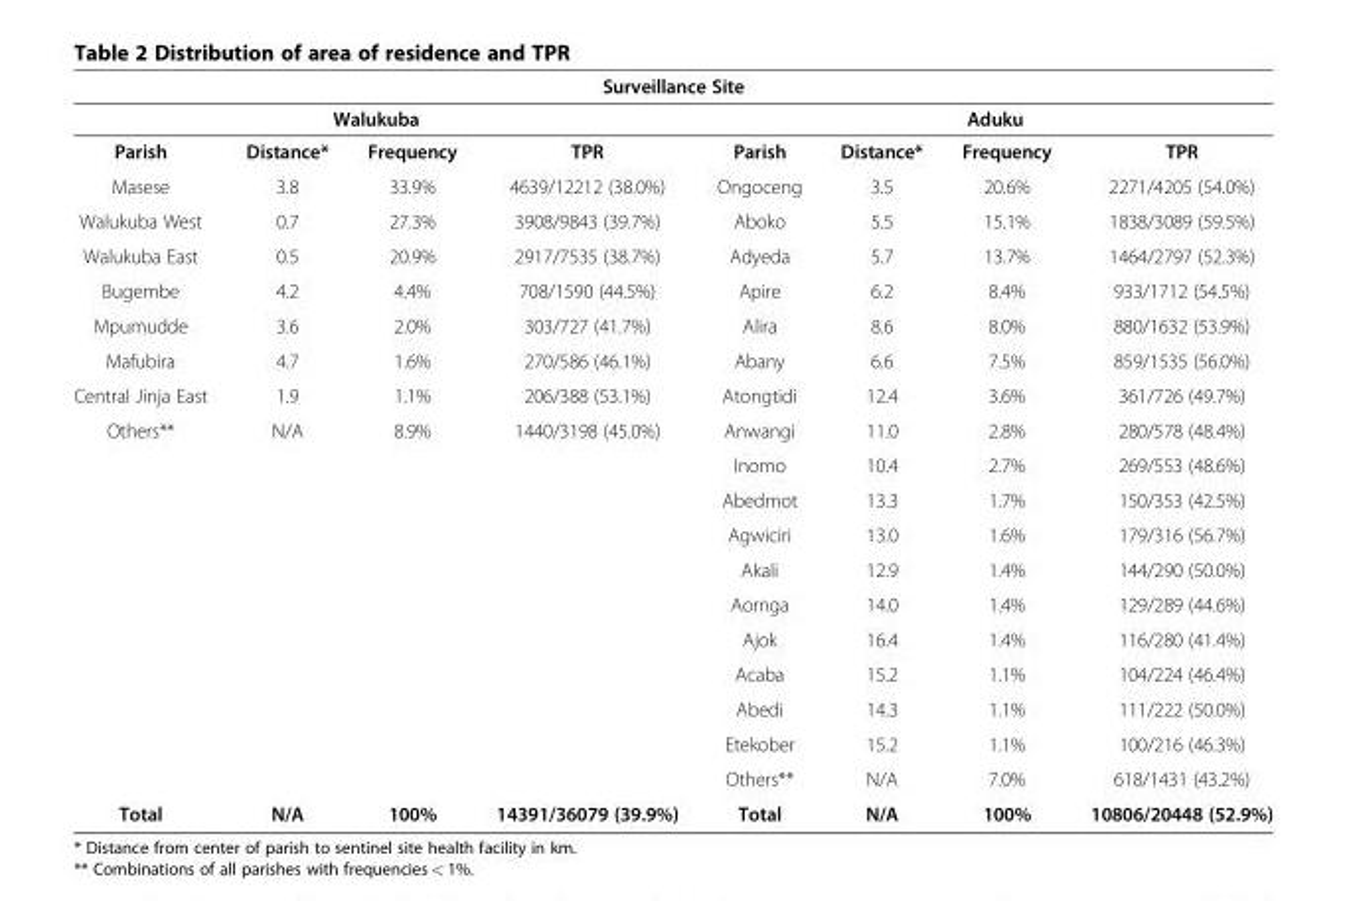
<table><thead><tr><td colspan="8">Surveillance Site</td></tr><tr><td colspan="4">Walukuba</td><td colspan="4">Aduku</td></tr><tr><td>Parish</td><td>Distance*</td><td>Frequency</td><td>TPR</td><td>Parish</td><td>Distance*</td><td>Frequency</td><td>TPR</td></tr></thead><tbody><tr><td>Masese</td><td>3.8</td><td>33.9%</td><td>4639/12212 (38.0%)</td><td>Ongoceng</td><td>3.5</td><td>20.6%</td><td>2271/4205 (54.0%)</td></tr><tr><td>Walukuba West</td><td>0.7</td><td>27.3%</td><td>3908/9843 (39.7%)</td><td>Aboko</td><td>5.5</td><td>15.1%</td><td>1838/3089 (59.5%)</td></tr><tr><td>Walukuba East</td><td>0.5</td><td>20.9%</td><td>2917/7535 (38.7%)</td><td>Adyeda</td><td>5.7</td><td>13.7%</td><td>1464/2797 (52.3%)</td></tr><tr><td>Bugembe</td><td>4.2</td><td>4.4%</td><td>708/1590 (44.5%)</td><td>Apire</td><td>6.2</td><td>8.4%</td><td>933/1712 (54.5%)</td></tr><tr><td>Mpumudde</td><td>3.6</td><td>2.0%</td><td>303/727 (41.7%)</td><td>Alira</td><td>8.6</td><td>8.0%</td><td>880/1632 (53.9%)</td></tr><tr><td>Mafubira</td><td>4.7</td><td>1.6%</td><td>270/586 (46.1%)</td><td>Abany</td><td>6.6</td><td>7.5%</td><td>859/1535 (56.0%)</td></tr><tr><td>Central Jinja East</td><td>1.9</td><td>1.1%</td><td>206/388 (53.1%)</td><td>Atongtidi</td><td>12.4</td><td>3.6%</td><td>361/726 (49.7%)</td></tr><tr><td rowspan="11">Others**</td><td>N/A</td><td>8.9%</td><td>1440/3198 (45.0%)</td><td>Anwangi</td><td>11.0</td><td>2.8%</td><td>280/578 (48.4%)</td></tr><tr><td></td><td></td><td></td><td>Inomo</td><td>10.4</td><td>2.7%</td><td>269/553 (48.6%)</td></tr><tr><td></td><td></td><td></td><td>Abedmot</td><td>13.3</td><td>1.7%</td><td>150/353 (42.5%)</td></tr><tr><td></td><td></td><td></td><td>Agwiciri</td><td>13.0</td><td>1.6%</td><td>179/316 (56.7%)</td></tr><tr><td></td><td></td><td></td><td>Akali</td><td>12.9</td><td>1.4%</td><td>144/290 (50.0%)</td></tr><tr><td></td><td></td><td></td><td>Aornga</td><td>14.0</td><td>1.4%</td><td>129/289 (44.6%)</td></tr><tr><td></td><td></td><td></td><td>Ajok</td><td>16.4</td><td>1.4%</td><td>116/280 (41.4%)</td></tr><tr><td></td><td></td><td></td><td>Acaba</td><td>15.2</td><td>1.1%</td><td>104/224 (46.4%)</td></tr><tr><td></td><td></td><td></td><td>Abedi</td><td>14.3</td><td>1.1%</td><td>111/222 (50.0%)</td></tr><tr><td></td><td></td><td></td><td>Etekober</td><td>15.2</td><td>1.1%</td><td>100/216 (46.3%)</td></tr><tr><td></td><td></td><td></td><td>Others**</td><td>N/A</td><td>7.0%</td><td>618/1431 (43.2%)</td></tr><tr><td>Total</td><td>N/A</td><td>100%</td><td>14391/36079 (39.9%)</td><td>Total</td><td>N/A</td><td>100%</td><td>10806/20448 (52.9%)</td></tr></tbody></table>